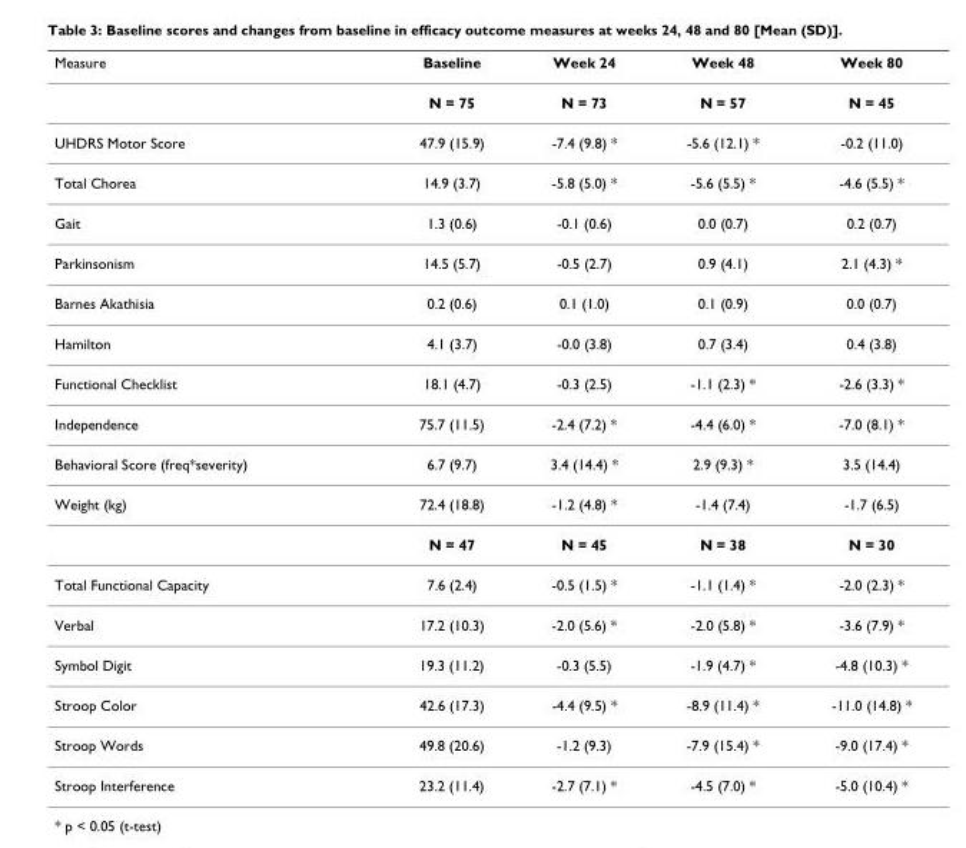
<table><thead><tr><td>Measure</td><td>Baseline</td><td>Week 24</td><td>Week 48</td><td>Week 80</td></tr></thead><tbody><tr><td></td><td>N = 75</td><td>N = 73</td><td>N = 57</td><td>N = 45</td></tr><tr><td>UHDRS Motor Score</td><td>47.9 (15.9)</td><td>-7.4 (9.8) *</td><td>-5.6 (12.1) *</td><td>-0.2 (11.0)</td></tr><tr><td>Total Chorea</td><td>14.9 (3.7)</td><td>-5.8 (5.0) *</td><td>-5.6 (5.5) *</td><td>-4.6 (5.5) *</td></tr><tr><td>Gait</td><td>1.3 (0.6)</td><td>-0.1 (0.6)</td><td>0.0 (0.7)</td><td>0.2 (0.7)</td></tr><tr><td>Parkinsonism</td><td>14.5 (5.7)</td><td>-0.5 (2.7)</td><td>0.9 (4.1)</td><td>2.1 (4.3) *</td></tr><tr><td>Barnes Akathisia</td><td>0.2 (0.6)</td><td>0.1 (1.0)</td><td>0.1 (0.9)</td><td>0.0 (0.7)</td></tr><tr><td>Hamilton</td><td>4.1 (3.7)</td><td>-0.0 (3.8)</td><td>0.7 (3.4)</td><td>0.4 (3.8)</td></tr><tr><td>Functional Checklist</td><td>18.1 (4.7)</td><td>-0.3 (2.5)</td><td>-1.1 (2.3) *</td><td>-2.6 (3.3) *</td></tr><tr><td>Independence</td><td>75.7 (11.5)</td><td>-2.4 (7.2) *</td><td>-4.4 (6.0) *</td><td>-7.0 (8.1) *</td></tr><tr><td>Behavioral Score (freq*severity)</td><td>6.7 (9.7)</td><td>3.4 (14.4) *</td><td>2.9 (9.3) *</td><td>3.5 (14.4)</td></tr><tr><td rowspan="2">Weight (kg)</td><td>72.4 (18.8)</td><td>-1.2 (4.8) *</td><td>-1.4 (7.4)</td><td>-1.7 (6.5)</td></tr><tr><td>N = 47</td><td>N = 45</td><td>N = 38</td><td>N = 30</td></tr><tr><td>Total Functional Capacity</td><td>7.6 (2.4)</td><td>-0.5 (1.5) *</td><td>-1.1 (1.4) *</td><td>-2.0 (2.3) *</td></tr><tr><td>Verbal</td><td>17.2 (10.3)</td><td>-2.0 (5.6) *</td><td>-2.0 (5.8) *</td><td>-3.6 (7.9) *</td></tr><tr><td>Symbol Digit</td><td>19.3 (11.2)</td><td>-0.3 (5.5)</td><td>-1.9 (4.7) *</td><td>-4.8 (10.3) *</td></tr><tr><td>Stroop Color</td><td>42.6 (17.3)</td><td>-4.4 (9.5) *</td><td>-8.9 (11.4) *</td><td>-11.0 (14.8) *</td></tr><tr><td>Stroop Words</td><td>49.8 (20.6)</td><td>-1.2 (9.3)</td><td>-7.9 (15.4) *</td><td>-9.0 (17.4) *</td></tr><tr><td>Stroop Interference</td><td>23.2 (11.4)</td><td>-2.7 (7.1) *</td><td>-4.5 (7.0) *</td><td>-5.0 (10.4) *</td></tr></tbody></table>